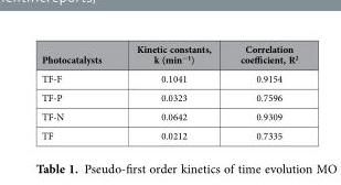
<table><thead><tr><td>Photocatalysts</td><td>Kinetic constants, k (min<sup>−1</sup>)</td><td>Correlation coefficient, R<sup>2</sup></td></tr></thead><tbody><tr><td>TF-F</td><td>0.1041</td><td>0.9154</td></tr><tr><td>TF-P</td><td>0.0323</td><td>0.7596</td></tr><tr><td>TF-N</td><td>0.0642</td><td>0.9309</td></tr><tr><td>TF</td><td>0.0212</td><td>0.7335</td></tr></tbody></table>